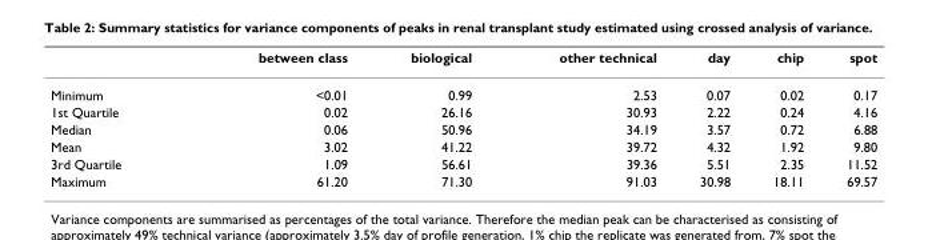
<table><thead><tr><td></td><td>between class</td><td>biological</td><td>other technical</td><td>day</td><td>chip</td><td>spot</td></tr></thead><tbody><tr><td>Minimum</td><td>&lt;0.01</td><td>0.99</td><td>2.53</td><td>0.07</td><td>0.02</td><td>0.17</td></tr><tr><td>1st Quartile</td><td>0.02</td><td>26.16</td><td>30.93</td><td>2.22</td><td>0.24</td><td>4.16</td></tr><tr><td>Median</td><td>0.06</td><td>50.96</td><td>34.19</td><td>3.57</td><td>0.72</td><td>6.88</td></tr><tr><td>Mean</td><td>3.02</td><td>41.22</td><td>39.72</td><td>4.32</td><td>1.92</td><td>9.80</td></tr><tr><td>3rd Quartile</td><td>1.09</td><td>56.61</td><td>39.36</td><td>5.51</td><td>2.35</td><td>11.52</td></tr><tr><td>Maximum</td><td>61.20</td><td>71.30</td><td>91.03</td><td>30.98</td><td>18.11</td><td>69.57</td></tr></tbody></table>